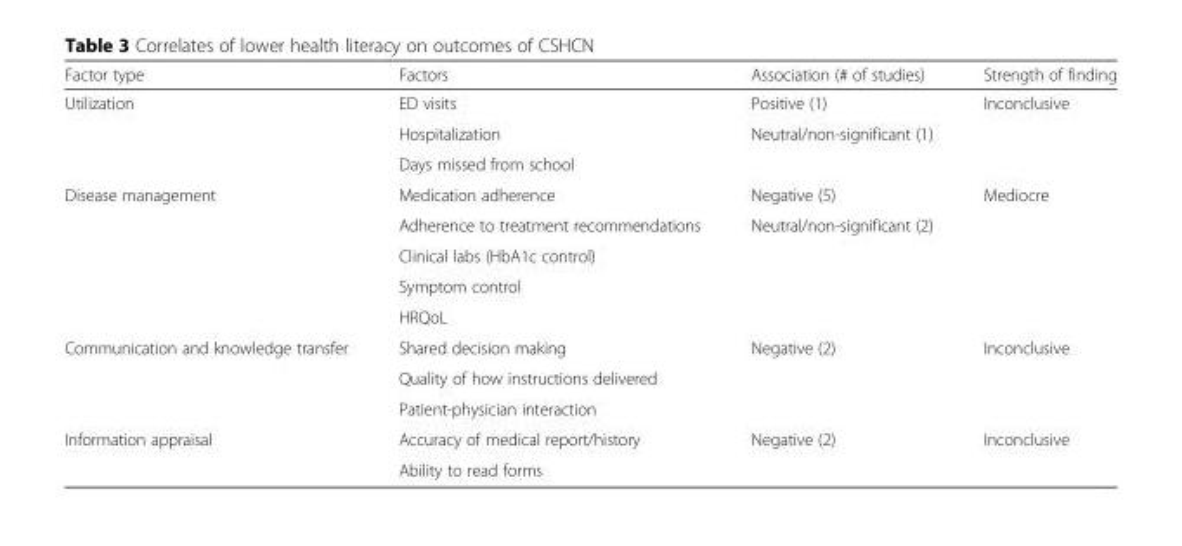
<table><thead><tr><td>Factor type</td><td>Factors</td><td>Association (# of studies)</td><td>Strength of finding</td></tr></thead><tbody><tr><td rowspan="3">Utilization</td><td>ED visits</td><td>Positive (1)</td><td rowspan="3">Inconclusive</td></tr><tr><td>Hospitalization</td><td rowspan="2">Neutral/non-significant (1)</td></tr><tr><td>Days missed from school</td></tr><tr><td rowspan="5">Disease management</td><td>Medication adherence</td><td>Negative (5)</td><td rowspan="5">Mediocre</td></tr><tr><td>Adherence to treatment recommendations</td><td rowspan="4">Neutral/non-significant (2)</td></tr><tr><td>Clinical labs (HbA1c control)</td></tr><tr><td>Symptom control</td></tr><tr><td>HRQoL</td></tr><tr><td rowspan="3">Communication and knowledge transfer</td><td>Shared decision making</td><td rowspan="3">Negative (2)</td><td rowspan="3">Inconclusive</td></tr><tr><td>Quality of how instructions delivered</td></tr><tr><td>Patient-physician interaction</td></tr><tr><td rowspan="2">Information appraisal</td><td>Accuracy of medical report/history</td><td rowspan="2">Negative (2)</td><td rowspan="2">Inconclusive</td></tr><tr><td>Ability to read forms</td></tr></tbody></table>